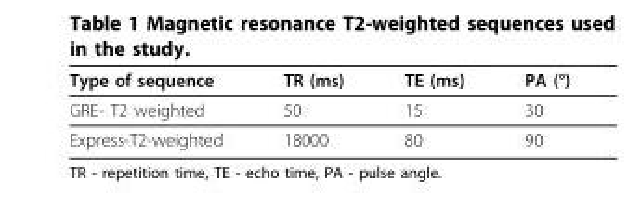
<table><thead><tr><td>Type of sequence</td><td>TR (ms)</td><td>TE (ms)</td><td>PA (°)</td></tr></thead><tbody><tr><td>GRE- T2 weighted</td><td>50</td><td>15</td><td>30</td></tr><tr><td>Express-T2-weighted</td><td>18000</td><td>80</td><td>90</td></tr></tbody></table>